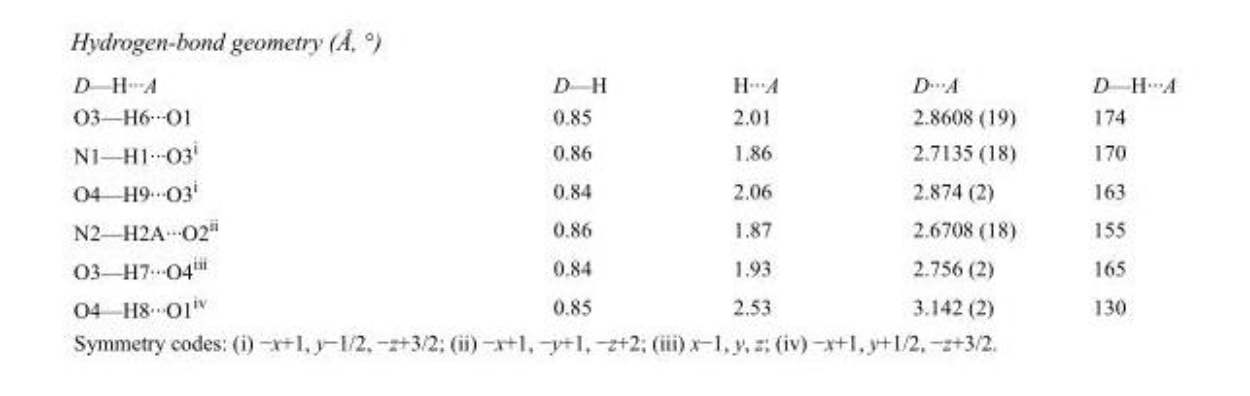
<table><tbody><tr><td>D—H···A</td><td>D—H</td><td>H···A</td><td>D···A</td><td>D—H···A</td></tr><tr><td>O3—H6···O1</td><td>0.85</td><td>2.01</td><td>2.8608 (19)</td><td>174</td></tr><tr><td>N1—H1···O3<sup>i</sup></td><td>0.86</td><td>1.86</td><td>2.7135 (18)</td><td>170</td></tr><tr><td>O4—H9···O3<sup>i</sup></td><td>0.84</td><td>2.06</td><td>2.874 (2)</td><td>163</td></tr><tr><td>N2—H2A···O2<sup>ii</sup></td><td>0.86</td><td>1.87</td><td>2.6708 (18)</td><td>155</td></tr><tr><td>O3—H7···O4<sup>iii</sup></td><td>0.84</td><td>1.93</td><td>2.756 (2)</td><td>165</td></tr><tr><td>O4—H8···O1<sup>iv</sup></td><td>0.85</td><td>2.53</td><td>3.142 (2)</td><td>130</td></tr></tbody></table>